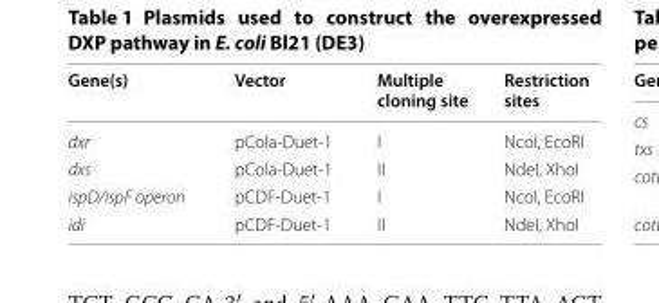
<table><thead><tr><td>Gene(s)</td><td>Vector</td><td>Multiple cloning site</td><td>Restriction sites</td></tr></thead><tbody><tr><td>dxr</td><td>pCola-Duet-1</td><td>I</td><td>NcoI, EcoRI</td></tr><tr><td>dxs</td><td>pCola-Duet-1</td><td>II</td><td>NdeI, XhoI</td></tr><tr><td>ispD/ispF operon</td><td>pCDF-Duet-1</td><td>I</td><td>NcoI, EcoRI</td></tr><tr><td>idi</td><td>pCDF-Duet-1</td><td>II</td><td>NdeI, XhoI</td></tr></tbody></table>